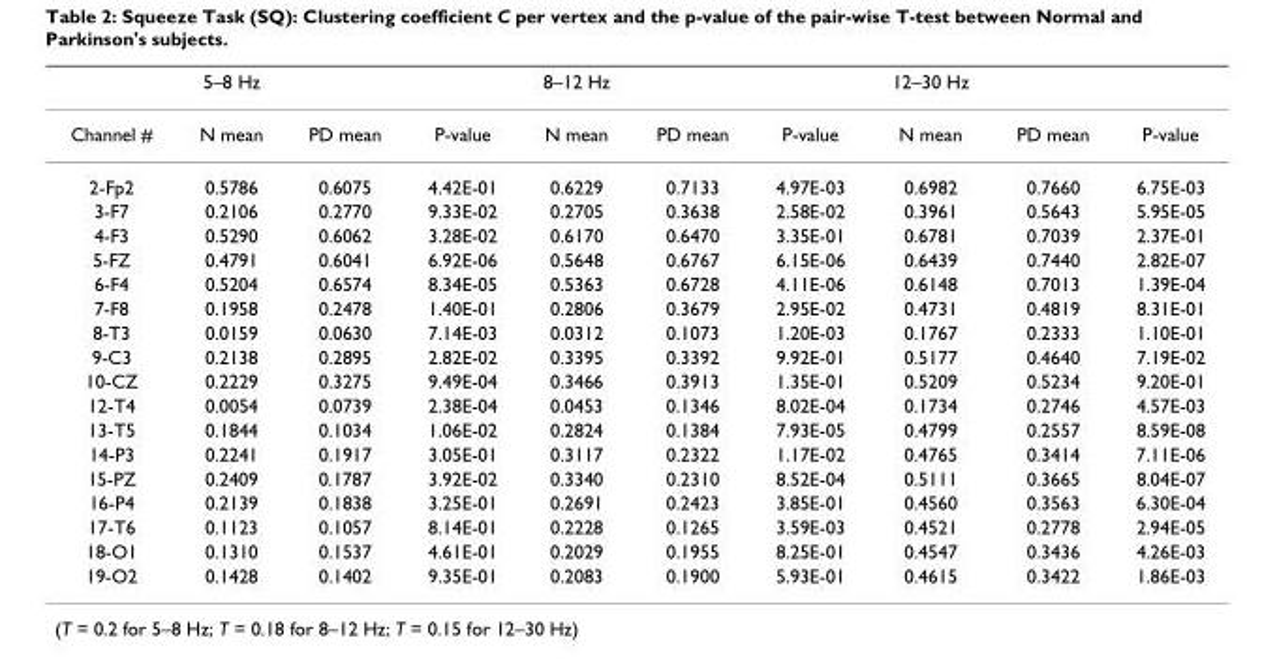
<table><thead><tr><td></td><td>5–8 Hz</td><td></td><td></td><td>8–12 Hz</td><td></td><td></td><td>12–30 Hz</td><td></td><td></td></tr></thead><tbody><tr><td>Channel #</td><td>N mean</td><td>PD mean</td><td>P-value</td><td>N mean</td><td>PD mean</td><td>P-value</td><td>N mean</td><td>PD mean</td><td>P-value</td></tr><tr><td>2-Fp2</td><td>0.5786</td><td>0.6075</td><td>4.42E-01</td><td>0.6229</td><td>0.7133</td><td>4.97E-03</td><td>0.6982</td><td>0.7660</td><td>6.75E-03</td></tr><tr><td>3-F7</td><td>0.2106</td><td>0.2770</td><td>9.33E-02</td><td>0.2705</td><td>0.3638</td><td>2.58E-02</td><td>0.3961</td><td>0.5643</td><td>5.95E-05</td></tr><tr><td>4-F3</td><td>0.5290</td><td>0.6062</td><td>3.28E-02</td><td>0.6170</td><td>0.6470</td><td>3.35E-01</td><td>0.6781</td><td>0.7039</td><td>2.37E-01</td></tr><tr><td>5-FZ</td><td>0.4791</td><td>0.6041</td><td>6.92E-06</td><td>0.5648</td><td>0.6767</td><td>6.15E-06</td><td>0.6439</td><td>0.7440</td><td>2.82E-07</td></tr><tr><td>6-F4</td><td>0.5204</td><td>0.6574</td><td>8.34E-05</td><td>0.5363</td><td>0.6728</td><td>4.11E-06</td><td>0.6148</td><td>0.7013</td><td>1.39E-04</td></tr><tr><td>7-F8</td><td>0.1958</td><td>0.2478</td><td>1.40E-01</td><td>0.2806</td><td>0.3679</td><td>2.95E-02</td><td>0.4731</td><td>0.4819</td><td>8.31E-01</td></tr><tr><td>8-T3</td><td>0.0159</td><td>0.0630</td><td>7.14E-03</td><td>0.0312</td><td>0.1073</td><td>1.20E-03</td><td>0.1767</td><td>0.2333</td><td>1.10E-01</td></tr><tr><td>9-C3</td><td>0.2138</td><td>0.2895</td><td>2.82E-02</td><td>0.3395</td><td>0.3392</td><td>9.92E-01</td><td>0.5177</td><td>0.4640</td><td>7.19E-02</td></tr><tr><td>10-CZ</td><td>0.2229</td><td>0.3275</td><td>9.49E-04</td><td>0.3466</td><td>0.3913</td><td>1.35E-01</td><td>0.5209</td><td>0.5234</td><td>9.20E-01</td></tr><tr><td>12-T4</td><td>0.0054</td><td>0.0739</td><td>2.38E-04</td><td>0.0453</td><td>0.1346</td><td>8.02E-04</td><td>0.1734</td><td>0.2746</td><td>4.57E-03</td></tr><tr><td>13-T5</td><td>0.1844</td><td>0.1034</td><td>1.06E-02</td><td>0.2824</td><td>0.1384</td><td>7.93E-05</td><td>0.4799</td><td>0.2557</td><td>8.59E-08</td></tr><tr><td>14-P3</td><td>0.2241</td><td>0.1917</td><td>3.05E-01</td><td>0.3117</td><td>0.2322</td><td>1.17E-02</td><td>0.4765</td><td>0.3414</td><td>7.11E-06</td></tr><tr><td>15-PZ</td><td>0.2409</td><td>0.1787</td><td>3.92E-02</td><td>0.3340</td><td>0.2310</td><td>8.52E-04</td><td>0.5111</td><td>0.3665</td><td>8.04E-07</td></tr><tr><td>16-P4</td><td>0.2139</td><td>0.1838</td><td>3.25E-01</td><td>0.2691</td><td>0.2423</td><td>3.85E-01</td><td>0.4560</td><td>0.3563</td><td>6.30E-04</td></tr><tr><td>17-T6</td><td>0.1123</td><td>0.1057</td><td>8.14E-01</td><td>0.2228</td><td>0.1265</td><td>3.59E-03</td><td>0.4521</td><td>0.2778</td><td>2.94E-05</td></tr><tr><td>18-O1</td><td>0.1310</td><td>0.1537</td><td>4.61E-01</td><td>0.2029</td><td>0.1955</td><td>8.25E-01</td><td>0.4547</td><td>0.3436</td><td>4.26E-03</td></tr><tr><td>19-O2</td><td>0.1428</td><td>0.1402</td><td>9.35E-01</td><td>0.2083</td><td>0.1900</td><td>5.93E-01</td><td>0.4615</td><td>0.3422</td><td>1.86E-03</td></tr></tbody></table>